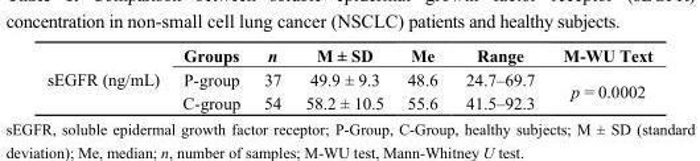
<table><tbody><tr><td rowspan="3">sEGFR (ng/mL)</td><td>Groups</td><td>n</td><td>M ± SD</td><td>Me</td><td>Range</td><td>M-WU Text</td></tr><tr><td>P-group</td><td>37</td><td>49.9 ± 9.3</td><td>48.6</td><td>24.7–69.7</td><td rowspan="2">p = 0.0002</td></tr><tr><td>C-group</td><td>54</td><td>58.2 ± 10.5</td><td>55.6</td><td>41.5–92.3</td></tr></tbody></table>